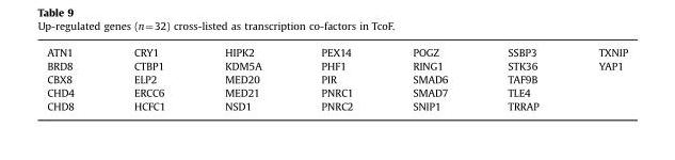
<table><tbody><tr><td>ATN1</td><td>CRY1</td><td>HIPK2</td><td>PEX14</td><td>POGZ</td><td>SSBP3</td><td>TXNIP</td></tr><tr><td>BRD8</td><td>CTBP1</td><td>KDM5A</td><td>PHF1</td><td>RING1</td><td>STK36</td><td>YAP1</td></tr><tr><td>CBX8</td><td>ELP2</td><td>MED20</td><td>PIR</td><td>SMAD6</td><td>TAF9B</td><td></td></tr><tr><td>CHD4</td><td>ERCC6</td><td>MED21</td><td>PNRC1</td><td>SMAD7</td><td>TLE4</td><td></td></tr><tr><td>CHD8</td><td>HCFC1</td><td>NSD1</td><td>PNRC2</td><td>SNIP1</td><td>TRRAP</td><td></td></tr></tbody></table>